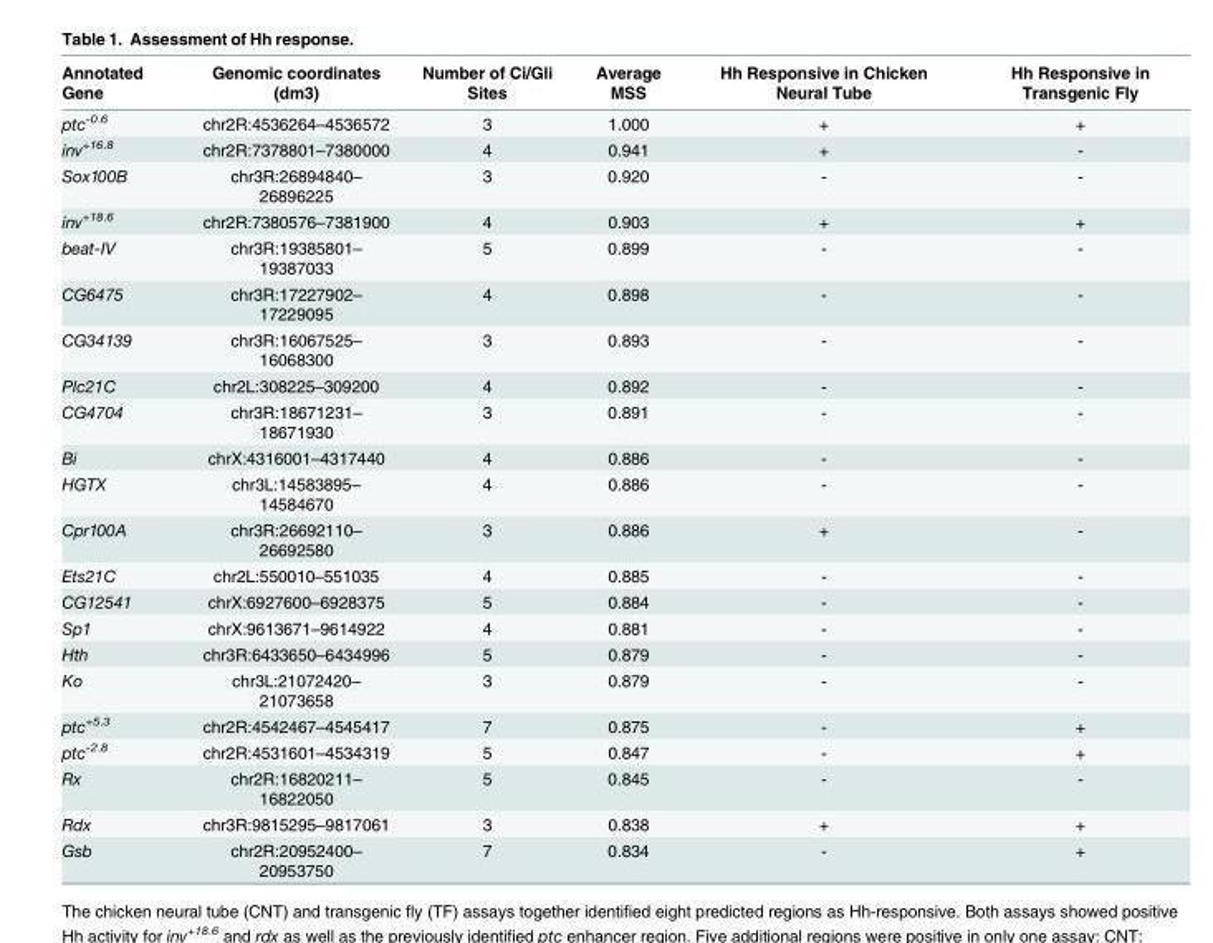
<table><thead><tr><td>Annotated Gene</td><td>Genomic coordinates (dm3)</td><td>Number of Ci/Gli Sites</td><td>Average MSS</td><td>Hh Responsive in Chicken Neural Tube</td><td>Hh Responsive in Transgenic Fly</td></tr></thead><tbody><tr><td>ptc<sup>-0.6</sup></td><td>chr2R:4536264–4536572</td><td>3</td><td>1.000</td><td>+</td><td>+</td></tr><tr><td>inv<sup>+16.8</sup></td><td>chr2R:7378801–7380000</td><td>4</td><td>0.941</td><td>+</td><td>-</td></tr><tr><td>Sox100B</td><td>chr3R:26894840– 26896225</td><td>3</td><td>0.920</td><td>-</td><td>-</td></tr><tr><td>inv<sup>+18.6</sup></td><td>chr2R:7380576–7381900</td><td>4</td><td>0.903</td><td>+</td><td>+</td></tr><tr><td>beat-IV</td><td>chr3R:19385801– 19387033</td><td>5</td><td>0.899</td><td>-</td><td>-</td></tr><tr><td>CG6475</td><td>chr3R:17227902– 17229095</td><td>4</td><td>0.898</td><td>-</td><td>-</td></tr><tr><td>CG34139</td><td>chr3R:16067525– 16068300</td><td>3</td><td>0.893</td><td>-</td><td>-</td></tr><tr><td>Plc21C</td><td>chr2L:308225–309200</td><td>4</td><td>0.892</td><td>-</td><td>-</td></tr><tr><td>CG4704</td><td>chr3R:18671231– 18671930</td><td>3</td><td>0.891</td><td>-</td><td>-</td></tr><tr><td>Bi</td><td>chrX:4316001–4317440</td><td>4</td><td>0.886</td><td>-</td><td>-</td></tr><tr><td>HGTX</td><td>chr3L:14583895– 14584670</td><td>4</td><td>0.886</td><td>-</td><td>-</td></tr><tr><td>Cpr100A</td><td>chr3R:26692110– 26692580</td><td>3</td><td>0.886</td><td>+</td><td>-</td></tr><tr><td>Ets21C</td><td>chr2L:550010–551035</td><td>4</td><td>0.885</td><td>-</td><td>-</td></tr><tr><td>CG12541</td><td>chrX:6927600–6928375</td><td>5</td><td>0.884</td><td>-</td><td>-</td></tr><tr><td>Sp1</td><td>chrX:9613671–9614922</td><td>4</td><td>0.881</td><td>-</td><td>-</td></tr><tr><td>Hth</td><td>chr3R:6433650–6434996</td><td>5</td><td>0.879</td><td>-</td><td>-</td></tr><tr><td>Ko</td><td>chr3L:21072420– 21073658</td><td>3</td><td>0.879</td><td>-</td><td>-</td></tr><tr><td>ptc<sup>+5.3</sup></td><td>chr2R:4542467–4545417</td><td>7</td><td>0.875</td><td>-</td><td>+</td></tr><tr><td>ptc<sup>-2.8</sup></td><td>chr2R:4531601–4534319</td><td>5</td><td>0.847</td><td>-</td><td>+</td></tr><tr><td>Rx</td><td>chr2R:16820211– 16822050</td><td>5</td><td>0.845</td><td>-</td><td>-</td></tr><tr><td>Rdx</td><td>chr3R:9815295–9817061</td><td>3</td><td>0.838</td><td>+</td><td>+</td></tr><tr><td>Gsb</td><td>chr2R:20952400– 20953750</td><td>7</td><td>0.834</td><td>-</td><td>+</td></tr></tbody></table>